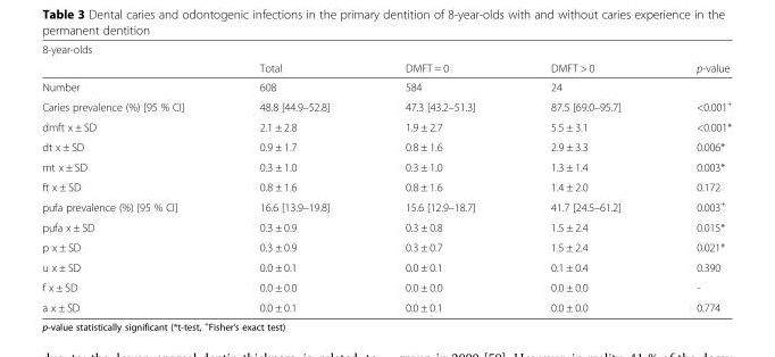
<table><thead><tr><td rowspan="2">8-year-olds</td><td rowspan="2">Total</td><td rowspan="2">DMFT = 0</td><td rowspan="2">DMFT &gt; 0</td><td rowspan="2">p-value</td></tr><tr></tr></thead><tbody><tr><td>Number</td><td>608</td><td>584</td><td>24</td><td></td></tr><tr><td>Caries prevalence (%) [95 % CI]</td><td>48.8 [44.9–52.8]</td><td>47.3 [43.2–51.3]</td><td>87.5 [69.0–95.7]</td><td>&lt;0.001<sup>+</sup></td></tr><tr><td>dmft x ± SD</td><td>2.1 ± 2.8</td><td>1.9 ± 2.7</td><td>5.5 ± 3.1</td><td>&lt;0.001*</td></tr><tr><td>dt x ± SD</td><td>0.9 ± 1.7</td><td>0.8 ± 1.6</td><td>2.9 ± 3.3</td><td>0.006*</td></tr><tr><td>mt x ± SD</td><td>0.3 ± 1.0</td><td>0.3 ± 1.0</td><td>1.3 ± 1.4</td><td>0.003*</td></tr><tr><td>ft x ± SD</td><td>0.8 ± 1.6</td><td>0.8 ± 1.6</td><td>1.4 ± 2.0</td><td>0.172</td></tr><tr><td>pufa prevalence (%) [95 % CI]</td><td>16.6 [13.9–19.8]</td><td>15.6 [12.9–18.7]</td><td>41.7 [24.5–61.2]</td><td>0.003<sup>+</sup></td></tr><tr><td>pufa x ± SD</td><td>0.3 ± 0.9</td><td>0.3 ± 0.8</td><td>1.5 ± 2.4</td><td>0.015*</td></tr><tr><td>p x ± SD</td><td>0.3 ± 0.9</td><td>0.3 ± 0.7</td><td>1.5 ± 2.4</td><td>0.021*</td></tr><tr><td>u x ± SD</td><td>0.0 ± 0.1</td><td>0.0 ± 0.1</td><td>0.1 ± 0.4</td><td>0.390</td></tr><tr><td>f x ± SD</td><td>0.0 ± 0.0</td><td>0.0 ± 0.0</td><td>0.0 ± 0.0</td><td>-</td></tr><tr><td>a x ± SD</td><td>0.0 ± 0.1</td><td>0.0 ± 0.1</td><td>0.0 ± 0.0</td><td>0.774</td></tr></tbody></table>